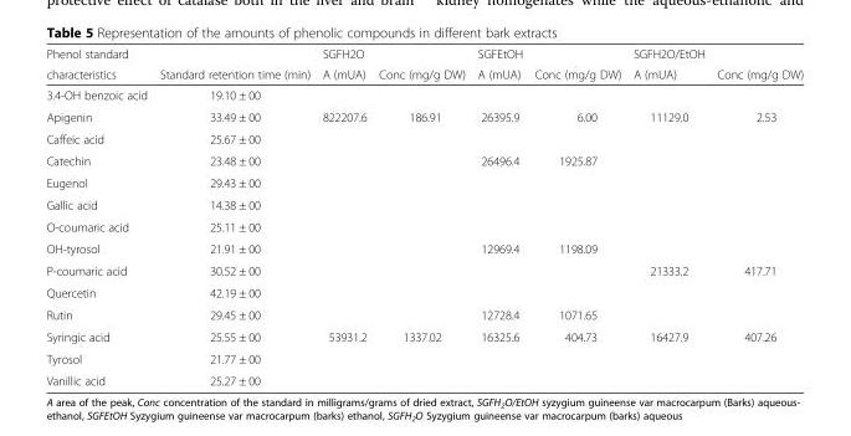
<table><thead><tr><td rowspan="2">Phenol standard characteristics</td><td rowspan="2">Standard retention time (min)</td><td rowspan="2">SGFH2O A (mUA)</td><td rowspan="2">Conc (mg/g DW)</td><td rowspan="2">SGFEtOH A (mUA)</td><td rowspan="2">Conc (mg/g DW)</td><td rowspan="2">SGFH2O/EtOH A (mUA)</td><td rowspan="2">Conc (mg/g DW)</td></tr><tr></tr></thead><tbody><tr><td>3.4-OH benzoic acid</td><td>19.10 ± 00</td><td></td><td></td><td></td><td></td><td></td><td></td></tr><tr><td>Apigenin</td><td>33.49 ± 00</td><td>822207.6</td><td>186.91</td><td>26395.9</td><td>6.00</td><td>11129.0</td><td>2.53</td></tr><tr><td>Caffeic acid</td><td>25.67 ± 00</td><td></td><td></td><td></td><td></td><td></td><td></td></tr><tr><td>Catechin</td><td>23.48 ± 00</td><td></td><td></td><td>26496.4</td><td>1925.87</td><td></td><td></td></tr><tr><td>Eugenol</td><td>29.43 ± 00</td><td></td><td></td><td></td><td></td><td></td><td></td></tr><tr><td>Gallic acid</td><td>14.38 ± 00</td><td></td><td></td><td></td><td></td><td></td><td></td></tr><tr><td>O-coumaric acid</td><td>25.11 ± 00</td><td></td><td></td><td></td><td></td><td></td><td></td></tr><tr><td>OH-tyrosol</td><td>21.91 ± 00</td><td></td><td></td><td>12969.4</td><td>1198.09</td><td></td><td></td></tr><tr><td>P-coumaric acid</td><td>30.52 ± 00</td><td></td><td></td><td></td><td></td><td>21333.2</td><td>417.71</td></tr><tr><td>Quercetin</td><td>42.19 ± 00</td><td></td><td></td><td></td><td></td><td></td><td></td></tr><tr><td>Rutin</td><td>29.45 ± 00</td><td></td><td></td><td>12728.4</td><td>1071.65</td><td></td><td></td></tr><tr><td>Syringic acid</td><td>25.55 ± 00</td><td>53931.2</td><td>1337.02</td><td>16325.6</td><td>404.73</td><td>16427.9</td><td>407.26</td></tr><tr><td>Tyrosol</td><td>21.77 ± 00</td><td></td><td></td><td></td><td></td><td></td><td></td></tr><tr><td>Vanillic acid</td><td>25.27 ± 00</td><td></td><td></td><td></td><td></td><td></td><td></td></tr></tbody></table>